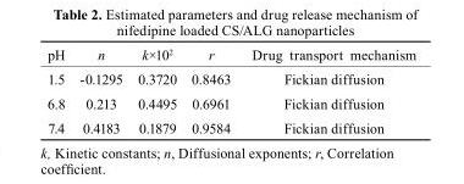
<table><thead><tr><td>pH</td><td>n</td><td>k×10<sup>2</sup></td><td>r</td><td>Drug transport mechanism</td></tr></thead><tbody><tr><td>1.5</td><td>-0.1295</td><td>0.3720</td><td>0.8463</td><td>Fickian diffusion</td></tr><tr><td>6.8</td><td>0.213</td><td>0.4495</td><td>0.6961</td><td>Fickian diffusion</td></tr><tr><td>7.4</td><td>0.4183</td><td>0.1879</td><td>0.9584</td><td>Fickian diffusion</td></tr></tbody></table>